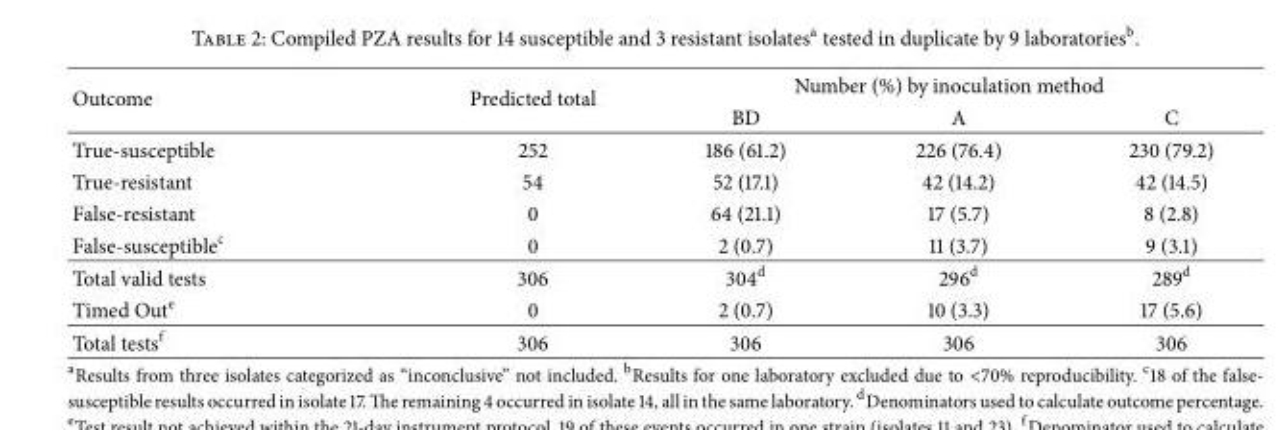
<table><thead><tr><td rowspan="2">Outcome</td><td rowspan="2">Predicted total</td><td colspan="3">Number (%) by inoculation method</td></tr><tr><td>BD</td><td>A</td><td>C</td></tr></thead><tbody><tr><td>True-susceptible</td><td>252</td><td>186 (61.2)</td><td>226 (76.4)</td><td>230 (79.2)</td></tr><tr><td>True-resistant</td><td>54</td><td>52 (17.1)</td><td>42 (14.2)</td><td>42 (14.5)</td></tr><tr><td>False-resistant</td><td>0</td><td>64 (21.1)</td><td>17 (5.7)</td><td>8 (2.8)</td></tr><tr><td>False-susceptible<sup>c</sup></td><td>0</td><td>2 (0.7)</td><td>11 (3.7)</td><td>9 (3.1)</td></tr><tr><td>Total valid tests</td><td>306</td><td>304<sup>d</sup></td><td>296<sup>d</sup></td><td>289<sup>d</sup></td></tr><tr><td>Timed Out<sup>e</sup></td><td>0</td><td>2 (0.7)</td><td>10 (3.3)</td><td>17 (5.6)</td></tr><tr><td>Total tests<sup>f</sup></td><td>306</td><td>306</td><td>306</td><td>306</td></tr></tbody></table>